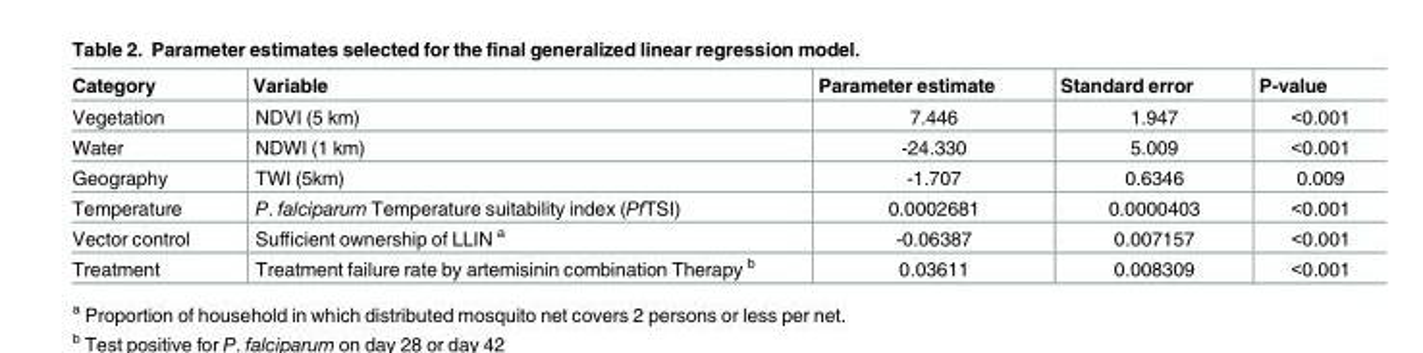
<table><thead><tr><td>Category</td><td>Variable</td><td>Parameter estimate</td><td>Standard error</td><td>P-value</td></tr></thead><tbody><tr><td>Vegetation</td><td>NDVI (5 km)</td><td>7.446</td><td>1.947</td><td>&lt;0.001</td></tr><tr><td>Water</td><td>NDWI (1 km)</td><td>-24.330</td><td>5.009</td><td>&lt;0.001</td></tr><tr><td>Geography</td><td>TWI (5km)</td><td>-1.707</td><td>0.6346</td><td>0.009</td></tr><tr><td>Temperature</td><td>P. falciparum Temperature suitability index (PfTSI)</td><td>0.0002681</td><td>0.0000403</td><td>&lt;0.001</td></tr><tr><td>Vector control</td><td>Sufficient ownership of LLIN <sup>a</sup></td><td>-0.06387</td><td>0.007157</td><td>&lt;0.001</td></tr><tr><td>Treatment</td><td>Treatment failure rate by artemisinin combination Therapy <sup>b</sup></td><td>0.03611</td><td>0.008309</td><td>&lt;0.001</td></tr></tbody></table>